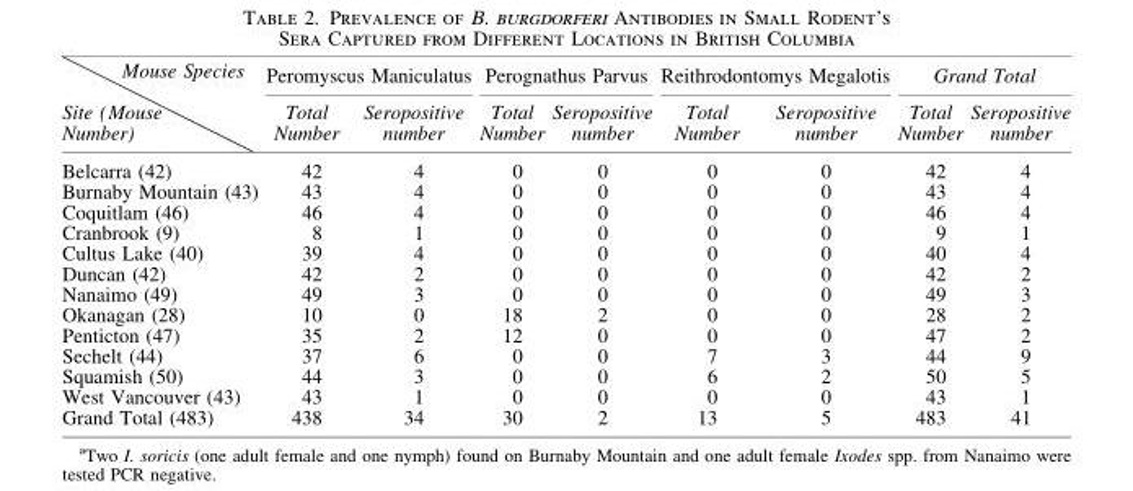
<table><thead><tr><td rowspan="2">Mouse Species Site (Mouse Number)</td><td colspan="2">Peromyscus Maniculatus</td><td colspan="2">Perognathus Parvus</td><td colspan="2">Reithrodontomys Megalotis</td><td colspan="2">Grand Total</td></tr><tr><td>Total Number</td><td>Seropositive number</td><td>Total Number</td><td>Seropositive number</td><td>Total Number</td><td>Seropositive number</td><td>Total Number</td><td>Seropositive number</td></tr></thead><tbody><tr><td>Belcarra (42)</td><td>42</td><td>4</td><td>0</td><td>0</td><td>0</td><td>0</td><td>42</td><td>4</td></tr><tr><td>Burnaby Mountain (43)</td><td>43</td><td>4</td><td>0</td><td>0</td><td>0</td><td>0</td><td>43</td><td>4</td></tr><tr><td>Coquitlam (46)</td><td>46</td><td>4</td><td>0</td><td>0</td><td>0</td><td>0</td><td>46</td><td>4</td></tr><tr><td>Cranbrook (9)</td><td>8</td><td>1</td><td>0</td><td>0</td><td>0</td><td>0</td><td>9</td><td>1</td></tr><tr><td>Cultus Lake (40)</td><td>39</td><td>4</td><td>0</td><td>0</td><td>0</td><td>0</td><td>40</td><td>4</td></tr><tr><td>Duncan (42)</td><td>42</td><td>2</td><td>0</td><td>0</td><td>0</td><td>0</td><td>42</td><td>2</td></tr><tr><td>Nanaimo (49)</td><td>49</td><td>3</td><td>0</td><td>0</td><td>0</td><td>0</td><td>49</td><td>3</td></tr><tr><td>Okanagan (28)</td><td>10</td><td>0</td><td>18</td><td>2</td><td>0</td><td>0</td><td>28</td><td>2</td></tr><tr><td>Penticton (47)</td><td>35</td><td>2</td><td>12</td><td>0</td><td>0</td><td>0</td><td>47</td><td>2</td></tr><tr><td>Sechelt (44)</td><td>37</td><td>6</td><td>0</td><td>0</td><td>7</td><td>3</td><td>44</td><td>9</td></tr><tr><td>Squamish (50)</td><td>44</td><td>3</td><td>0</td><td>0</td><td>6</td><td>2</td><td>50</td><td>5</td></tr><tr><td>West Vancouver (43)</td><td>43</td><td>1</td><td>0</td><td>0</td><td>0</td><td>0</td><td>43</td><td>1</td></tr><tr><td>Grand Total (483)</td><td>438</td><td>34</td><td>30</td><td>2</td><td>13</td><td>5</td><td>483</td><td>41</td></tr></tbody></table>